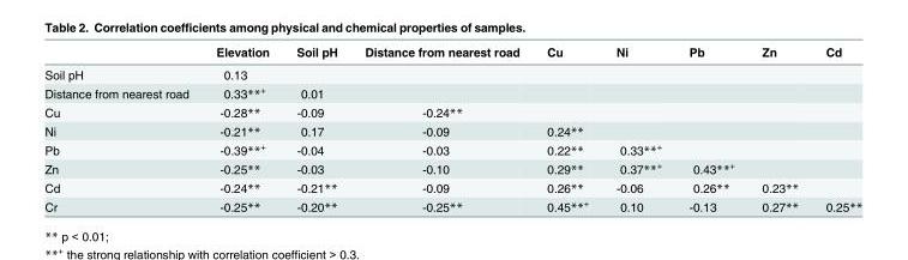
<table><thead><tr><td></td><td>Elevation</td><td>Soil pH</td><td>Distance from nearest road</td><td>Cu</td><td>Ni</td><td>Pb</td><td>Zn</td><td>Cd</td></tr></thead><tbody><tr><td>Soil pH</td><td>0.13</td><td></td><td></td><td></td><td></td><td></td><td></td><td></td></tr><tr><td>Distance from nearest road</td><td>0.33**<sup>+</sup></td><td>0.01</td><td></td><td></td><td></td><td></td><td></td><td></td></tr><tr><td>Cu</td><td>-0.28**</td><td>-0.09</td><td>-0.24**</td><td></td><td></td><td></td><td></td><td></td></tr><tr><td>Ni</td><td>-0.21**</td><td>0.17</td><td>-0.09</td><td>0.24**</td><td></td><td></td><td></td><td></td></tr><tr><td>Pb</td><td>-0.39**<sup>+</sup></td><td>-0.04</td><td>-0.03</td><td>0.22**</td><td>0.33**<sup>+</sup></td><td></td><td></td><td></td></tr><tr><td>Zn</td><td>-0.25**</td><td>-0.03</td><td>-0.10</td><td>0.29**</td><td>0.37**<sup>+</sup></td><td>0.43**<sup>+</sup></td><td></td><td></td></tr><tr><td>Cd</td><td>-0.24**</td><td>-0.21**</td><td>-0.09</td><td>0.26**</td><td>-0.06</td><td>0.26**</td><td>0.23**</td><td></td></tr><tr><td>Cr</td><td>-0.25**</td><td>-0.20**</td><td>-0.25**</td><td>0.45**<sup>+</sup></td><td>0.10</td><td>-0.13</td><td>0.27**</td><td>0.25**</td></tr></tbody></table>